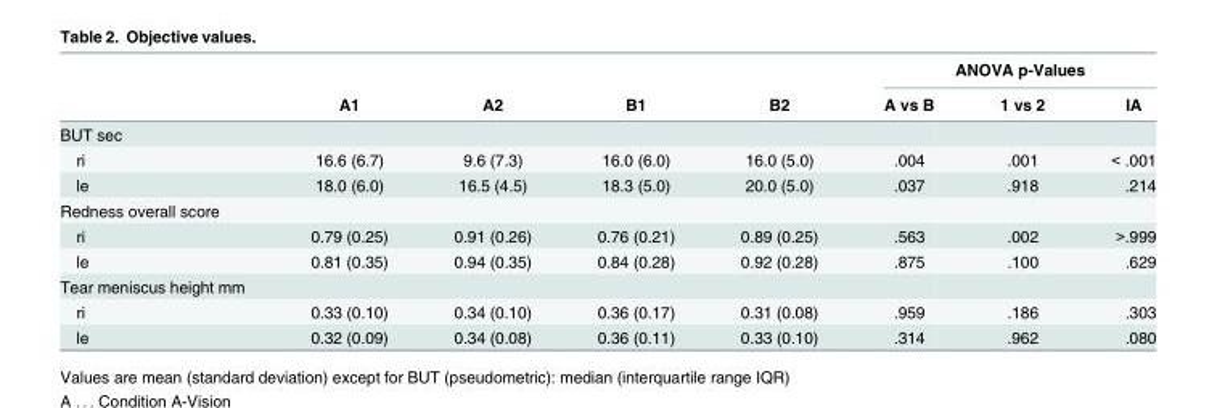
<table><thead><tr><td rowspan="2"></td><td rowspan="2">A1</td><td rowspan="2">A2</td><td rowspan="2">B1</td><td rowspan="2">B2</td><td colspan="3">ANOVA p-Values</td></tr><tr><td>A vs B</td><td>1 vs 2</td><td>IA</td></tr></thead><tbody><tr><td colspan="8">BUT sec</td></tr><tr><td>ri</td><td>16.6 (6.7)</td><td>9.6 (7.3)</td><td>16.0 (6.0)</td><td>16.0 (5.0)</td><td>.004</td><td>.001</td><td>&lt; .001</td></tr><tr><td>le</td><td>18.0 (6.0)</td><td>16.5 (4.5)</td><td>18.3 (5.0)</td><td>20.0 (5.0)</td><td>.037</td><td>.918</td><td>.214</td></tr><tr><td colspan="8">Redness overall score</td></tr><tr><td>ri</td><td>0.79 (0.25)</td><td>0.91 (0.26)</td><td>0.76 (0.21)</td><td>0.89 (0.25)</td><td>.563</td><td>.002</td><td>&gt;.999</td></tr><tr><td>le</td><td>0.81 (0.35)</td><td>0.94 (0.35)</td><td>0.84 (0.28)</td><td>0.92 (0.28)</td><td>.875</td><td>.100</td><td>.629</td></tr><tr><td colspan="8">Tear meniscus height mm</td></tr><tr><td>ri</td><td>0.33 (0.10)</td><td>0.34 (0.10)</td><td>0.36 (0.17)</td><td>0.31 (0.08)</td><td>.959</td><td>.186</td><td>.303</td></tr><tr><td>le</td><td>0.32 (0.09)</td><td>0.34 (0.08)</td><td>0.36 (0.11)</td><td>0.33 (0.10)</td><td>.314</td><td>.962</td><td>.080</td></tr></tbody></table>